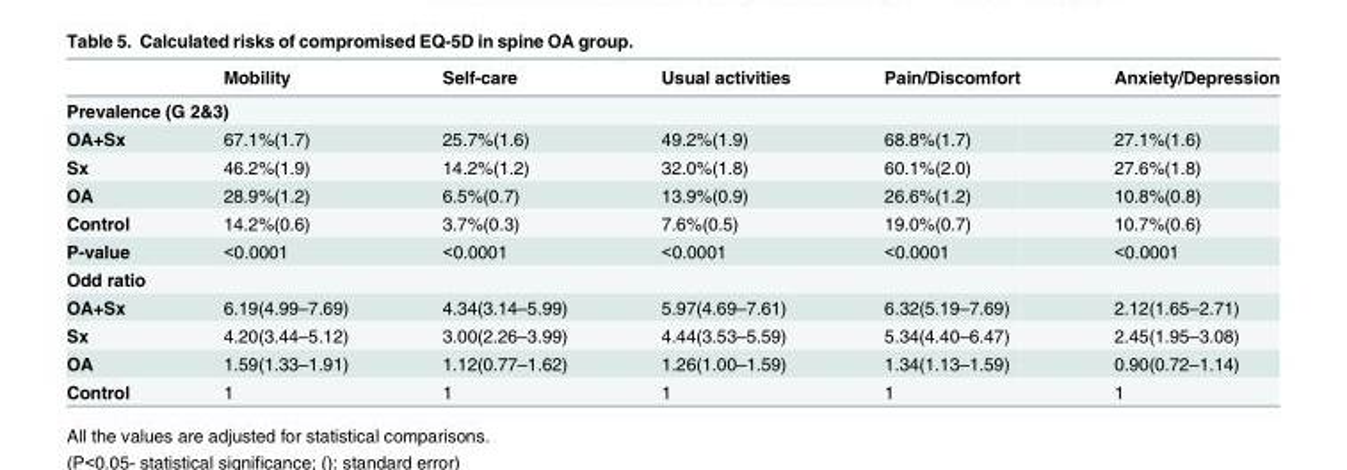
<table><thead><tr><td></td><td>Mobility</td><td>Self-care</td><td>Usual activities</td><td>Pain/Discomfort</td><td>Anxiety/Depression</td></tr></thead><tbody><tr><td colspan="6">Prevalence (G 2&amp;3)</td></tr><tr><td>OA+Sx</td><td>67.1%(1.7)</td><td>25.7%(1.6)</td><td>49.2%(1.9)</td><td>68.8%(1.7)</td><td>27.1%(1.6)</td></tr><tr><td>Sx</td><td>46.2%(1.9)</td><td>14.2%(1.2)</td><td>32.0%(1.8)</td><td>60.1%(2.0)</td><td>27.6%(1.8)</td></tr><tr><td>OA</td><td>28.9%(1.2)</td><td>6.5%(0.7)</td><td>13.9%(0.9)</td><td>26.6%(1.2)</td><td>10.8%(0.8)</td></tr><tr><td>Control</td><td>14.2%(0.6)</td><td>3.7%(0.3)</td><td>7.6%(0.5)</td><td>19.0%(0.7)</td><td>10.7%(0.6)</td></tr><tr><td>P-value</td><td>&lt;0.0001</td><td>&lt;0.0001</td><td>&lt;0.0001</td><td>&lt;0.0001</td><td>&lt;0.0001</td></tr><tr><td colspan="6">Odd ratio</td></tr><tr><td>OA+Sx</td><td>6.19(4.99–7.69)</td><td>4.34(3.14–5.99)</td><td>5.97(4.69–7.61)</td><td>6.32(5.19–7.69)</td><td>2.12(1.65–2.71)</td></tr><tr><td>Sx</td><td>4.20(3.44–5.12)</td><td>3.00(2.26–3.99)</td><td>4.44(3.53–5.59)</td><td>5.34(4.40–6.47)</td><td>2.45(1.95–3.08)</td></tr><tr><td>OA</td><td>1.59(1.33–1.91)</td><td>1.12(0.77–1.62)</td><td>1.26(1.00–1.59)</td><td>1.34(1.13–1.59)</td><td>0.90(0.72–1.14)</td></tr><tr><td>Control</td><td>1</td><td>1</td><td>1</td><td>1</td><td>1</td></tr></tbody></table>